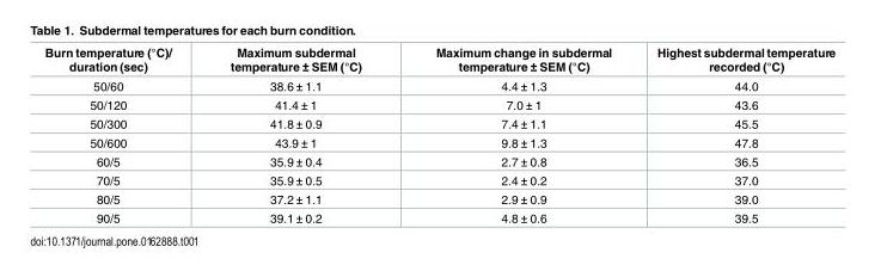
<table><thead><tr><td>Burn temperature (°C)/ duration (sec)</td><td>Maximum subdermal temperature ± SEM (°C)</td><td>Maximum change in subdermal temperature ± SEM (°C)</td><td>Highest subdermal temperature recorded (°C)</td></tr></thead><tbody><tr><td>50/60</td><td>38.6 ± 1.1</td><td>4.4 ± 1.3</td><td>44.0</td></tr><tr><td>50/120</td><td>41.4 ± 1</td><td>7.0 ± 1</td><td>43.6</td></tr><tr><td>50/300</td><td>41.8 ± 0.9</td><td>7.4 ± 1.1</td><td>45.5</td></tr><tr><td>50/600</td><td>43.9 ± 1</td><td>9.8 ± 1.3</td><td>47.8</td></tr><tr><td>60/5</td><td>35.9 ± 0.4</td><td>2.7 ± 0.8</td><td>36.5</td></tr><tr><td>70/5</td><td>35.9 ± 0.5</td><td>2.4 ± 0.2</td><td>37.0</td></tr><tr><td>80/5</td><td>37.2 ± 1.1</td><td>2.9 ± 0.9</td><td>39.0</td></tr><tr><td>90/5</td><td>39.1 ± 0.2</td><td>4.8 ± 0.6</td><td>39.5</td></tr></tbody></table>